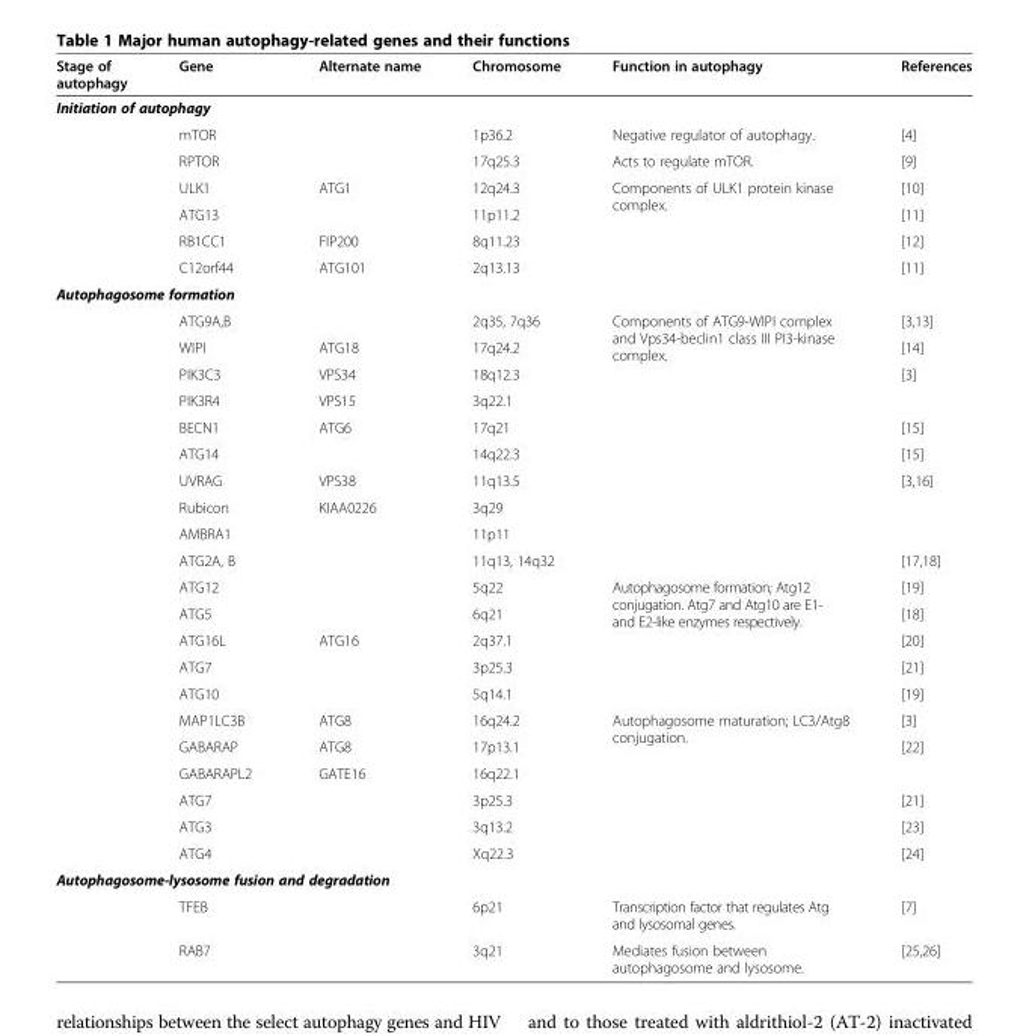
<table><thead><tr><td>Stage of autophagy</td><td>Gene</td><td>Alternate name</td><td>Chromosome</td><td>Function in autophagy</td><td>References</td></tr></thead><tbody><tr><td colspan="6">Initiation of autophagy</td></tr><tr><td></td><td>mTOR</td><td></td><td>1p36.2</td><td>Negative regulator of autophagy.</td><td>[4]</td></tr><tr><td></td><td>RPTOR</td><td></td><td>17q25.3</td><td>Acts to regulate mTOR.</td><td>[9]</td></tr><tr><td></td><td>ULK1</td><td>ATG1</td><td>12q24.3</td><td rowspan="4">Components of ULK1 protein kinase complex.</td><td>[10]</td></tr><tr><td></td><td>ATG13</td><td></td><td>11p11.2</td><td>[11]</td></tr><tr><td></td><td>RB1CC1</td><td>FIP200</td><td>8q11.23</td><td>[12]</td></tr><tr><td></td><td>C12orf44</td><td>ATG101</td><td>2q13.13</td><td>[11]</td></tr><tr><td colspan="6">Autophagosome formation</td></tr><tr><td></td><td>ATG9A,B</td><td></td><td>2q35, 7q36</td><td rowspan="10">Components of ATG9-WIPI complex and Vps34-beclin1 class III PI3-kinase complex.</td><td>[3,13]</td></tr><tr><td></td><td>WIPI</td><td>ATG18</td><td>17q24.2</td><td>[14]</td></tr><tr><td></td><td>PIK3C3</td><td>VPS34</td><td>18q12.3</td><td>[3]</td></tr><tr><td></td><td>PIK3R4</td><td>VPS15</td><td>3q22.1</td><td></td></tr><tr><td></td><td>BECN1</td><td>ATG6</td><td>17q21</td><td>[15]</td></tr><tr><td></td><td>ATG14</td><td></td><td>14q22.3</td><td>[15]</td></tr><tr><td></td><td>UVRAG</td><td>VPS38</td><td>11q13.5</td><td>[3,16]</td></tr><tr><td></td><td>Rubicon</td><td>KIAA0226</td><td>3q29</td><td></td></tr><tr><td></td><td>AMBRA1</td><td></td><td>11p11</td><td></td></tr><tr><td></td><td>ATG2A, B</td><td></td><td>11q13, 14q32</td><td>[17,18]</td></tr><tr><td></td><td>ATG12</td><td></td><td>5q22</td><td rowspan="5">Autophagosome formation; Atg12 conjugation. Atg7 and Atg10 are E1- and E2-like enzymes respectively.</td><td>[19]</td></tr><tr><td></td><td>ATG5</td><td></td><td>6q21</td><td>[18]</td></tr><tr><td></td><td>ATG16L</td><td>ATG16</td><td>2q37.1</td><td>[20]</td></tr><tr><td></td><td>ATG7</td><td></td><td>3p25.3</td><td>[21]</td></tr><tr><td></td><td>ATG10</td><td></td><td>5q14.1</td><td>[19]</td></tr><tr><td></td><td>MAP1LC3B</td><td>ATG8</td><td>16q24.2</td><td rowspan="6">Autophagosome maturation; LC3/Atg8 conjugation.</td><td>[3]</td></tr><tr><td></td><td>GABARAP</td><td>ATG8</td><td>17p13.1</td><td>[22]</td></tr><tr><td></td><td>GABARAPL2</td><td>GATE16</td><td>16q22.1</td><td></td></tr><tr><td></td><td>ATG7</td><td></td><td>3p25.3</td><td>[21]</td></tr><tr><td></td><td>ATG3</td><td></td><td>3q13.2</td><td>[23]</td></tr><tr><td></td><td>ATG4</td><td></td><td>Xq22.3</td><td>[24]</td></tr><tr><td colspan="6">Autophagosome-lysosome fusion and degradation</td></tr><tr><td></td><td>TFEB</td><td></td><td>6p21</td><td>Transcription factor that regulates Atg and lysosomal genes.</td><td>[7]</td></tr><tr><td></td><td>RAB7</td><td></td><td>3q21</td><td>Mediates fusion between autophagosome and lysosome.</td><td>[25,26]</td></tr></tbody></table>